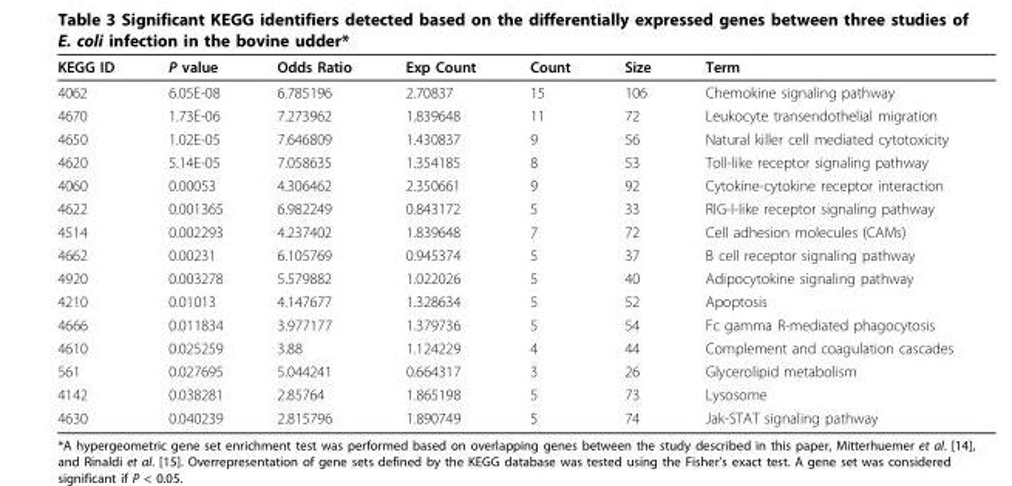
<table><thead><tr><td>KEGG ID</td><td>P value</td><td>Odds Ratio</td><td>Exp Count</td><td>Count</td><td>Size</td><td>Term</td></tr></thead><tbody><tr><td>4062</td><td>6.05E-08</td><td>6.785196</td><td>2.70837</td><td>15</td><td>106</td><td>Chemokine signaling pathway</td></tr><tr><td>4670</td><td>1.73E-06</td><td>7.273962</td><td>1.839648</td><td>11</td><td>72</td><td>Leukocyte transendothelial migration</td></tr><tr><td>4650</td><td>1.02E-05</td><td>7.646809</td><td>1.430837</td><td>9</td><td>56</td><td>Natural killer cell mediated cytotoxicity</td></tr><tr><td>4620</td><td>5.14E-05</td><td>7.058635</td><td>1.354185</td><td>8</td><td>53</td><td>Toll-like receptor signaling pathway</td></tr><tr><td>4060</td><td>0.00053</td><td>4.306462</td><td>2.350661</td><td>9</td><td>92</td><td>Cytokine-cytokine receptor interaction</td></tr><tr><td>4622</td><td>0.001365</td><td>6.982249</td><td>0.843172</td><td>5</td><td>33</td><td>RIG-I-like receptor signaling pathway</td></tr><tr><td>4514</td><td>0.002293</td><td>4.237402</td><td>1.839648</td><td>7</td><td>72</td><td>Cell adhesion molecules (CAMs)</td></tr><tr><td>4662</td><td>0.00231</td><td>6.105769</td><td>0.945374</td><td>5</td><td>37</td><td>B cell receptor signaling pathway</td></tr><tr><td>4920</td><td>0.003278</td><td>5.579882</td><td>1.022026</td><td>5</td><td>40</td><td>Adipocytokine signaling pathway</td></tr><tr><td>4210</td><td>0.01013</td><td>4.147677</td><td>1.328634</td><td>5</td><td>52</td><td>Apoptosis</td></tr><tr><td>4666</td><td>0.011834</td><td>3.977177</td><td>1.379736</td><td>5</td><td>54</td><td>Fc gamma R-mediated phagocytosis</td></tr><tr><td>4610</td><td>0.025259</td><td>3.88</td><td>1.124229</td><td>4</td><td>44</td><td>Complement and coagulation cascades</td></tr><tr><td>561</td><td>0.027695</td><td>5.044241</td><td>0.664317</td><td>3</td><td>26</td><td>Glycerolipid metabolism</td></tr><tr><td>4142</td><td>0.038281</td><td>2.85764</td><td>1.865198</td><td>5</td><td>73</td><td>Lysosome</td></tr><tr><td>4630</td><td>0.040239</td><td>2.815796</td><td>1.890749</td><td>5</td><td>74</td><td>Jak-STAT signaling pathway</td></tr></tbody></table>